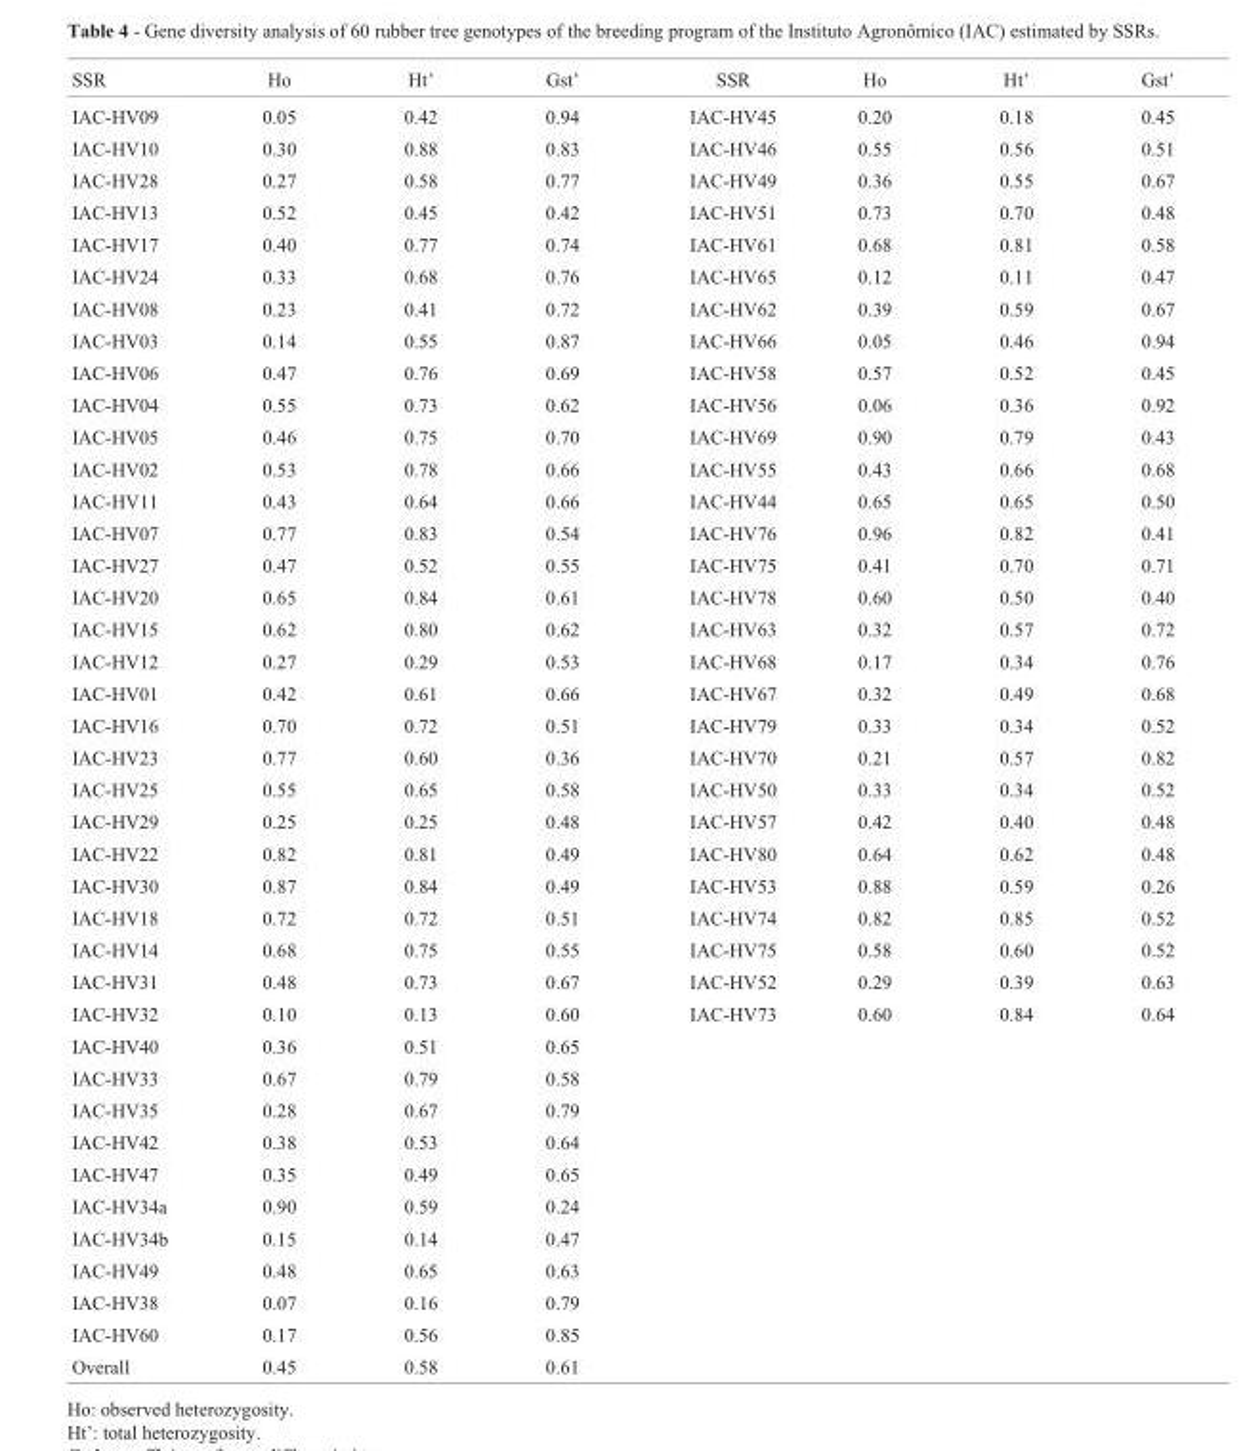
<table><thead><tr><td>SSR</td><td>Ho</td><td>Ht’</td><td>Gst’</td><td>SSR</td><td>Ho</td><td>Ht’</td><td>Gst’</td></tr></thead><tbody><tr><td>IAC-HV09</td><td>0.05</td><td>0.42</td><td>0.94</td><td>IAC-HV45</td><td>0.20</td><td>0.18</td><td>0.45</td></tr><tr><td>IAC-HV10</td><td>0.30</td><td>0.88</td><td>0.83</td><td>IAC-HV46</td><td>0.55</td><td>0.56</td><td>0.51</td></tr><tr><td>IAC-HV28</td><td>0.27</td><td>0.58</td><td>0.77</td><td>IAC-HV49</td><td>0.36</td><td>0.55</td><td>0.67</td></tr><tr><td>IAC-HV13</td><td>0.52</td><td>0.45</td><td>0.42</td><td>IAC-HV51</td><td>0.73</td><td>0.70</td><td>0.48</td></tr><tr><td>IAC-HV17</td><td>0.40</td><td>0.77</td><td>0.74</td><td>IAC-HV61</td><td>0.68</td><td>0.81</td><td>0.58</td></tr><tr><td>IAC-HV24</td><td>0.33</td><td>0.68</td><td>0.76</td><td>IAC-HV65</td><td>0.12</td><td>0.11</td><td>0.47</td></tr><tr><td>IAC-HV08</td><td>0.23</td><td>0.41</td><td>0.72</td><td>IAC-HV62</td><td>0.39</td><td>0.59</td><td>0.67</td></tr><tr><td>IAC-HV03</td><td>0.14</td><td>0.55</td><td>0.87</td><td>IAC-HV66</td><td>0.05</td><td>0.46</td><td>0.94</td></tr><tr><td>IAC-HV06</td><td>0.47</td><td>0.76</td><td>0.69</td><td>IAC-HV58</td><td>0.57</td><td>0.52</td><td>0.45</td></tr><tr><td>IAC-HV04</td><td>0.55</td><td>0.73</td><td>0.62</td><td>IAC-HV56</td><td>0.06</td><td>0.36</td><td>0.92</td></tr><tr><td>IAC-HV05</td><td>0.46</td><td>0.75</td><td>0.70</td><td>IAC-HV69</td><td>0.90</td><td>0.79</td><td>0.43</td></tr><tr><td>IAC-HV02</td><td>0.53</td><td>0.78</td><td>0.66</td><td>IAC-HV55</td><td>0.43</td><td>0.66</td><td>0.68</td></tr><tr><td>IAC-HV11</td><td>0.43</td><td>0.64</td><td>0.66</td><td>IAC-HV44</td><td>0.65</td><td>0.65</td><td>0.50</td></tr><tr><td>IAC-HV07</td><td>0.77</td><td>0.83</td><td>0.54</td><td>IAC-HV76</td><td>0.96</td><td>0.82</td><td>0.41</td></tr><tr><td>IAC-HV27</td><td>0.47</td><td>0.52</td><td>0.55</td><td>IAC-HV75</td><td>0.41</td><td>0.70</td><td>0.71</td></tr><tr><td>IAC-HV20</td><td>0.65</td><td>0.84</td><td>0.61</td><td>IAC-HV78</td><td>0.60</td><td>0.50</td><td>0.40</td></tr><tr><td>IAC-HV15</td><td>0.62</td><td>0.80</td><td>0.62</td><td>IAC-HV63</td><td>0.32</td><td>0.57</td><td>0.72</td></tr><tr><td>IAC-HV12</td><td>0.27</td><td>0.29</td><td>0.53</td><td>IAC-HV68</td><td>0.17</td><td>0.34</td><td>0.76</td></tr><tr><td>IAC-HV01</td><td>0.42</td><td>0.61</td><td>0.66</td><td>IAC-HV67</td><td>0.32</td><td>0.49</td><td>0.68</td></tr><tr><td>IAC-HV16</td><td>0.70</td><td>0.72</td><td>0.51</td><td>IAC-HV79</td><td>0.33</td><td>0.34</td><td>0.52</td></tr><tr><td>IAC-HV23</td><td>0.77</td><td>0.60</td><td>0.36</td><td>IAC-HV70</td><td>0.21</td><td>0.57</td><td>0.82</td></tr><tr><td>IAC-HV25</td><td>0.55</td><td>0.65</td><td>0.58</td><td>IAC-HV50</td><td>0.33</td><td>0.34</td><td>0.52</td></tr><tr><td>IAC-HV29</td><td>0.25</td><td>0.25</td><td>0.48</td><td>IAC-HV57</td><td>0.42</td><td>0.40</td><td>0.48</td></tr><tr><td>IAC-HV22</td><td>0.82</td><td>0.81</td><td>0.49</td><td>IAC-HV80</td><td>0.64</td><td>0.62</td><td>0.48</td></tr><tr><td>IAC-HV30</td><td>0.87</td><td>0.84</td><td>0.49</td><td>IAC-HV53</td><td>0.88</td><td>0.59</td><td>0.26</td></tr><tr><td>IAC-HV18</td><td>0.72</td><td>0.72</td><td>0.51</td><td>IAC-HV74</td><td>0.82</td><td>0.85</td><td>0.52</td></tr><tr><td>IAC-HV14</td><td>0.68</td><td>0.75</td><td>0.55</td><td>IAC-HV75</td><td>0.58</td><td>0.60</td><td>0.52</td></tr><tr><td>IAC-HV31</td><td>0.48</td><td>0.73</td><td>0.67</td><td>IAC-HV52</td><td>0.29</td><td>0.39</td><td>0.63</td></tr><tr><td>IAC-HV32</td><td>0.10</td><td>0.13</td><td>0.60</td><td>IAC-HV73</td><td>0.60</td><td>0.84</td><td>0.64</td></tr><tr><td>IAC-HV40</td><td>0.36</td><td>0.51</td><td>0.65</td><td></td><td></td><td></td><td></td></tr><tr><td>IAC-HV33</td><td>0.67</td><td>0.79</td><td>0.58</td><td></td><td></td><td></td><td></td></tr><tr><td>IAC-HV35</td><td>0.28</td><td>0.67</td><td>0.79</td><td></td><td></td><td></td><td></td></tr><tr><td>IAC-HV42</td><td>0.38</td><td>0.53</td><td>0.64</td><td></td><td></td><td></td><td></td></tr><tr><td>IAC-HV47</td><td>0.35</td><td>0.49</td><td>0.65</td><td></td><td></td><td></td><td></td></tr><tr><td>IAC-HV34a</td><td>0.90</td><td>0.59</td><td>0.24</td><td></td><td></td><td></td><td></td></tr><tr><td>IAC-HV34b</td><td>0.15</td><td>0.14</td><td>0.47</td><td></td><td></td><td></td><td></td></tr><tr><td>IAC-HV49</td><td>0.48</td><td>0.65</td><td>0.63</td><td></td><td></td><td></td><td></td></tr><tr><td>IAC-HV38</td><td>0.07</td><td>0.16</td><td>0.79</td><td></td><td></td><td></td><td></td></tr><tr><td>IAC-HV60</td><td>0.17</td><td>0.56</td><td>0.85</td><td></td><td></td><td></td><td></td></tr><tr><td>Overall</td><td>0.45</td><td>0.58</td><td>0.61</td><td></td><td></td><td></td><td></td></tr></tbody></table>